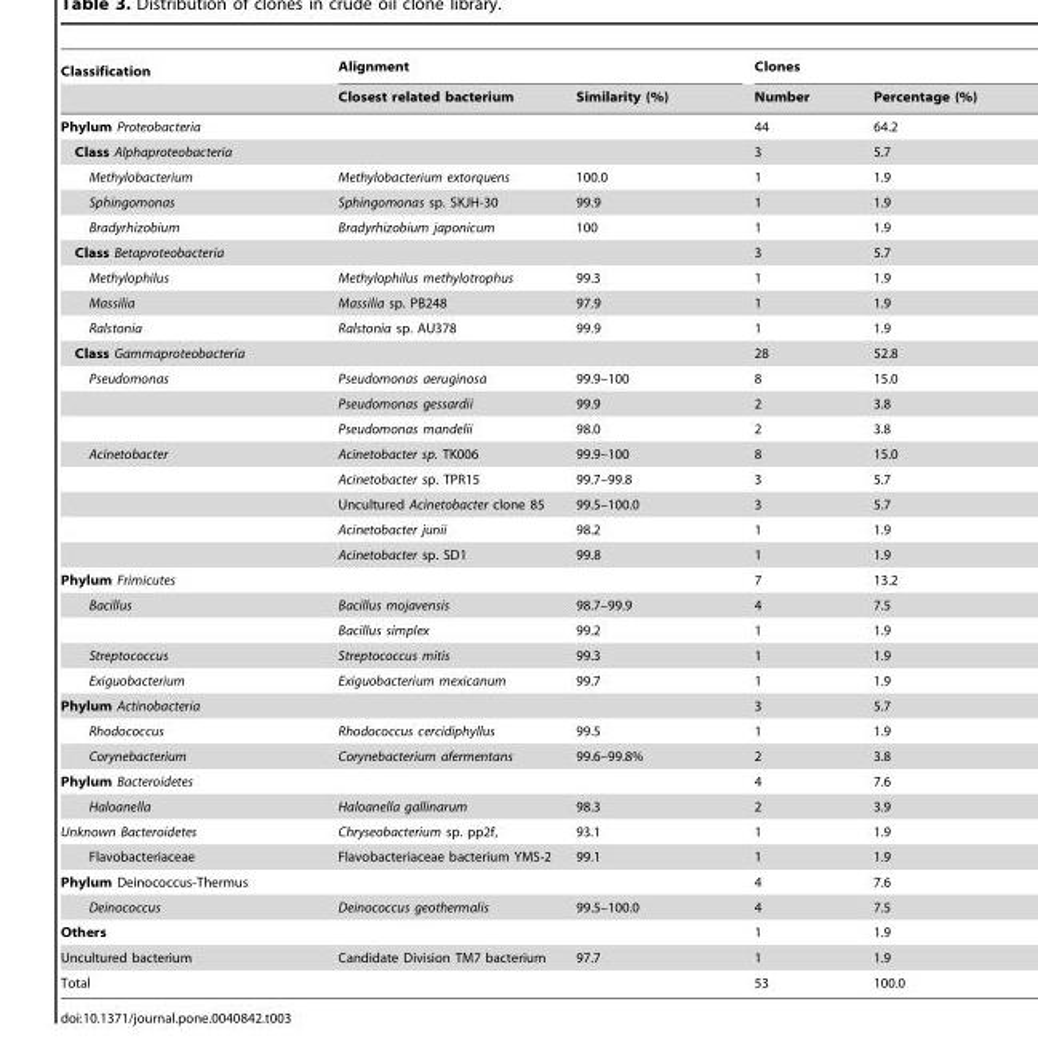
<table><thead><tr><td rowspan="2">Classification</td><td colspan="2">Alignment</td><td colspan="2">Clones</td></tr><tr><td>Closest related bacterium</td><td>Similarity (%)</td><td>Number</td><td>Percentage (%)</td></tr></thead><tbody><tr><td colspan="3">Phylum Proteobacteria</td><td>44</td><td>64.2</td></tr><tr><td colspan="3">Class Alphaproteobacteria</td><td>3</td><td>5.7</td></tr><tr><td>Methylobacterium</td><td>Methylobacterium extorquens</td><td>100.0</td><td>1</td><td>1.9</td></tr><tr><td>Sphingomonas</td><td>Sphingomonas sp. SKJH-30</td><td>99.9</td><td>1</td><td>1.9</td></tr><tr><td>Bradyrhizobium</td><td>Bradyrhizobium japonicum</td><td>100</td><td>1</td><td>1.9</td></tr><tr><td colspan="3">Class Betaproteobacteria</td><td>3</td><td>5.7</td></tr><tr><td>Methylophilus</td><td>Methylophilus methylotrophus</td><td>99.3</td><td>1</td><td>1.9</td></tr><tr><td>Massilia</td><td>Massilia sp. PB248</td><td>97.9</td><td>1</td><td>1.9</td></tr><tr><td>Ralstonia</td><td>Ralstonia sp. AU378</td><td>99.9</td><td>1</td><td>1.9</td></tr><tr><td colspan="3">Class Gammaproteobacteria</td><td>28</td><td>52.8</td></tr><tr><td rowspan="3">Pseudomonas</td><td>Pseudomonas aeruginosa</td><td>99.9–100</td><td>8</td><td>15.0</td></tr><tr><td>Pseudomonas gessardii</td><td>99.9</td><td>2</td><td>3.8</td></tr><tr><td>Pseudomonas mandelii</td><td>98.0</td><td>2</td><td>3.8</td></tr><tr><td rowspan="5">Acinetobacter</td><td>Acinetobacter sp. TK006</td><td>99.9–100</td><td>8</td><td>15.0</td></tr><tr><td>Acinetobacter sp. TPR15</td><td>99.7–99.8</td><td>3</td><td>5.7</td></tr><tr><td>Uncultured Acinetobacter clone 85</td><td>99.5–100.0</td><td>3</td><td>5.7</td></tr><tr><td>Acinetobacter junii</td><td>98.2</td><td>1</td><td>1.9</td></tr><tr><td>Acinetobacter sp. SD1</td><td>99.8</td><td>1</td><td>1.9</td></tr><tr><td colspan="3">Phylum Frimicutes</td><td>7</td><td>13.2</td></tr><tr><td rowspan="2">Bacillus</td><td>Bacillus mojavensis</td><td>98.7–99.9</td><td>4</td><td>7.5</td></tr><tr><td>Bacillus simplex</td><td>99.2</td><td>1</td><td>1.9</td></tr><tr><td>Streptococcus</td><td>Streptococcus mitis</td><td>99.3</td><td>1</td><td>1.9</td></tr><tr><td>Exiguobacterium</td><td>Exiguobacterium mexicanum</td><td>99.7</td><td>1</td><td>1.9</td></tr><tr><td colspan="3">Phylum Actinobacteria</td><td>3</td><td>5.7</td></tr><tr><td>Rhodococcus</td><td>Rhodococcus cercidiphyllus</td><td>99.5</td><td>1</td><td>1.9</td></tr><tr><td>Corynebacterium</td><td>Corynebacterium afermentans</td><td>99.6–99.8%</td><td>2</td><td>3.8</td></tr><tr><td colspan="3">Phylum Bacteroidetes</td><td>4</td><td>7.6</td></tr><tr><td>Haloanella</td><td>Haloanella gallinarum</td><td>98.3</td><td>2</td><td>3.9</td></tr><tr><td>Unknown Bacteroidetes</td><td>Chryseobacterium sp. pp2f,</td><td>93.1</td><td>1</td><td>1.9</td></tr><tr><td>Flavobacteriaceae</td><td>Flavobacteriaceae bacterium YMS-2</td><td>99.1</td><td>1</td><td>1.9</td></tr><tr><td colspan="3">Phylum Deinococcus-Thermus</td><td>4</td><td>7.6</td></tr><tr><td>Deinococcus</td><td>Deinococcus geothermalis</td><td>99.5–100.0</td><td>4</td><td>7.5</td></tr><tr><td colspan="3">Others</td><td>1</td><td>1.9</td></tr><tr><td>Uncultured bacterium</td><td>Candidate Division TM7 bacterium</td><td>97.7</td><td>1</td><td>1.9</td></tr><tr><td colspan="3">Total</td><td>53</td><td>100.0</td></tr></tbody></table>